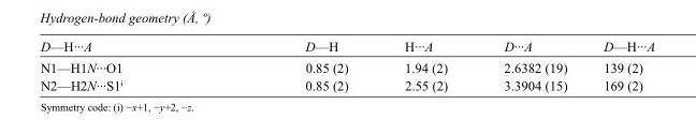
<table><tbody><tr><td>D—H···A</td><td>D—H</td><td>H···A</td><td>D···A</td><td>D—H···A</td></tr><tr><td>N1—H1N···O1</td><td>0.85 (2)</td><td>1.94 (2)</td><td>2.6382 (19)</td><td>139 (2)</td></tr><tr><td>N2—H2N···S1<sup>i</sup></td><td>0.85 (2)</td><td>2.55 (2)</td><td>3.3904 (15)</td><td>169 (2)</td></tr></tbody></table>